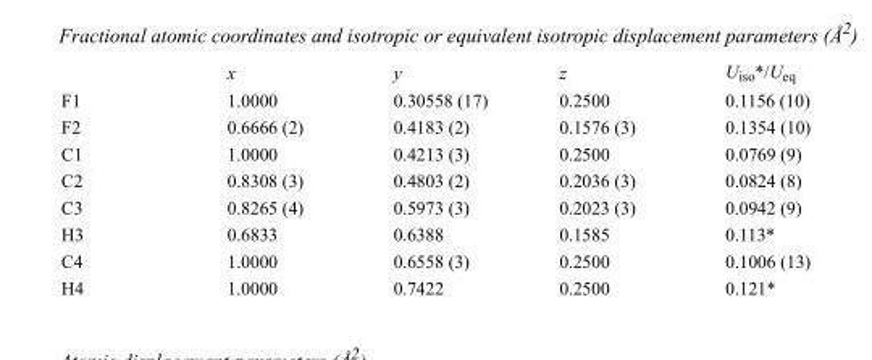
<table><thead><tr><td></td><td>x</td><td>y</td><td>z</td><td>U<sub>iso</sub>*/U<sub>eq</sub></td></tr></thead><tbody><tr><td>F1</td><td>1.0000</td><td>0.30558 (17)</td><td>0.2500</td><td>0.1156 (10)</td></tr><tr><td>F2</td><td>0.6666 (2)</td><td>0.4183 (2)</td><td>0.1576 (3)</td><td>0.1354 (10)</td></tr><tr><td>C1</td><td>1.0000</td><td>0.4213 (3)</td><td>0.2500</td><td>0.0769 (9)</td></tr><tr><td>C2</td><td>0.8308 (3)</td><td>0.4803 (2)</td><td>0.2036 (3)</td><td>0.0824 (8)</td></tr><tr><td>C3</td><td>0.8265 (4)</td><td>0.5973 (3)</td><td>0.2023 (3)</td><td>0.0942 (9)</td></tr><tr><td>H3</td><td>0.6833</td><td>0.6388</td><td>0.1585</td><td>0.113*</td></tr><tr><td>C4</td><td>1.0000</td><td>0.6558 (3)</td><td>0.2500</td><td>0.1006 (13)</td></tr><tr><td>H4</td><td>1.0000</td><td>0.7422</td><td>0.2500</td><td>0.121*</td></tr></tbody></table>